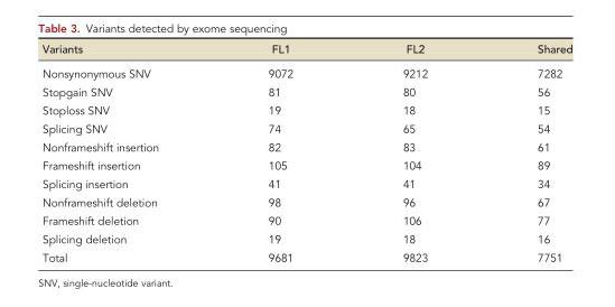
<table><thead><tr><td>Variants</td><td>FL1</td><td>FL2</td><td>Shared</td></tr></thead><tbody><tr><td>Nonsynonymous SNV</td><td>9072</td><td>9212</td><td>7282</td></tr><tr><td>Stopgain SNV</td><td>81</td><td>80</td><td>56</td></tr><tr><td>Stoploss SNV</td><td>19</td><td>18</td><td>15</td></tr><tr><td>Splicing SNV</td><td>74</td><td>65</td><td>54</td></tr><tr><td>Nonframeshift insertion</td><td>82</td><td>83</td><td>61</td></tr><tr><td>Frameshift insertion</td><td>105</td><td>104</td><td>89</td></tr><tr><td>Splicing insertion</td><td>41</td><td>41</td><td>34</td></tr><tr><td>Nonframeshift deletion</td><td>98</td><td>96</td><td>67</td></tr><tr><td>Frameshift deletion</td><td>90</td><td>106</td><td>77</td></tr><tr><td>Splicing deletion</td><td>19</td><td>18</td><td>16</td></tr><tr><td>Total</td><td>9681</td><td>9823</td><td>7751</td></tr></tbody></table>